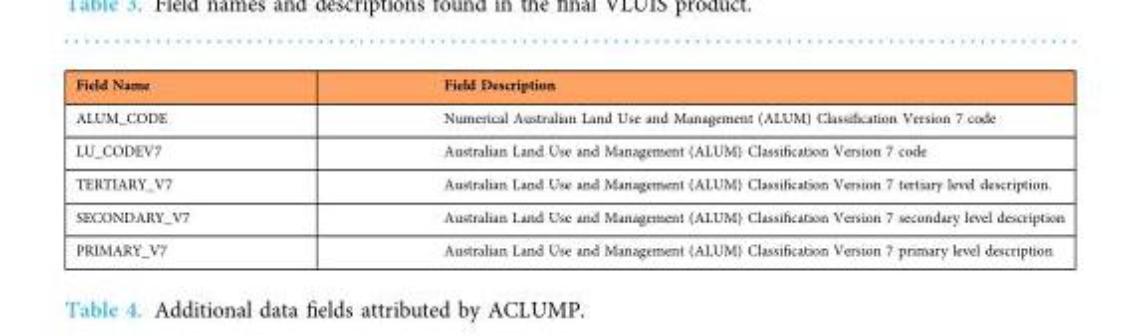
<table><thead><tr><td>Field Name</td><td>Field Description</td></tr></thead><tbody><tr><td>ALUM_CODE</td><td>Numerical Australian Land Use and Management (ALUM) Classification Version 7 code</td></tr><tr><td>LU_CODEV7</td><td>Australian Land Use and Management (ALUM) Classification Version 7 code</td></tr><tr><td>TERTIARY_V7</td><td>Australian Land Use and Management (ALUM) Classification Version 7 tertiary level description.</td></tr><tr><td>SECONDARY_V7</td><td>Australian Land Use and Management (ALUM) Classification Version 7 secondary level description</td></tr><tr><td>PRIMARY_V7</td><td>Australian Land Use and Management (ALUM) Classification Version 7 primary level description</td></tr></tbody></table>